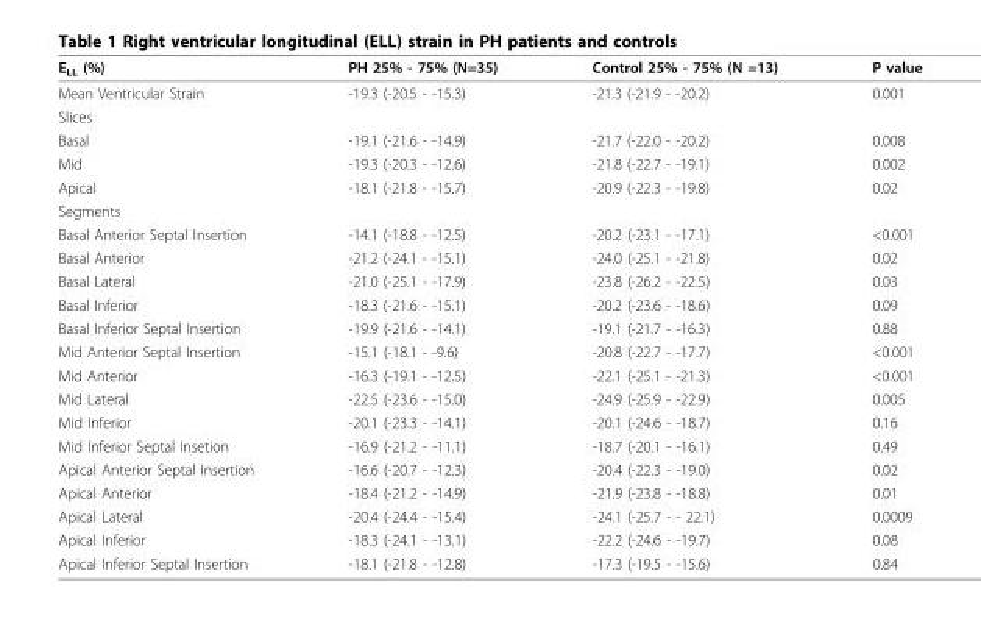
<table><thead><tr><td>E<sub>LL</sub> (%)</td><td>PH 25% - 75% (N=35)</td><td>Control 25% - 75% (N =13)</td><td>P value</td></tr></thead><tbody><tr><td>Mean Ventricular Strain</td><td>-19.3 (-20.5 - -15.3)</td><td>-21.3 (-21.9 - -20.2)</td><td>0.001</td></tr><tr><td colspan="4">Slices</td></tr><tr><td>Basal</td><td>-19.1 (-21.6 - -14.9)</td><td>-21.7 (-22.0 - -20.2)</td><td>0.008</td></tr><tr><td>Mid</td><td>-19.3 (-20.3 - -12.6)</td><td>-21.8 (-22.7 - -19.1)</td><td>0.002</td></tr><tr><td>Apical</td><td>-18.1 (-21.8 - -15.7)</td><td>-20.9 (-22.3 - -19.8)</td><td>0.02</td></tr><tr><td colspan="4">Segments</td></tr><tr><td>Basal Anterior Septal Insertion</td><td>-14.1 (-18.8 - -12.5)</td><td>-20.2 (-23.1 - -17.1)</td><td>&lt;0.001</td></tr><tr><td>Basal Anterior</td><td>-21.2 (-24.1 - -15.1)</td><td>-24.0 (-25.1 - -21.8)</td><td>0.02</td></tr><tr><td>Basal Lateral</td><td>-21.0 (-25.1 - -17.9)</td><td>-23.8 (-26.2 - -22.5)</td><td>0.03</td></tr><tr><td>Basal Inferior</td><td>-18.3 (-21.6 - -15.1)</td><td>-20.2 (-23.6 - -18.6)</td><td>0.09</td></tr><tr><td>Basal Inferior Septal Insertion</td><td>-19.9 (-21.6 - -14.1)</td><td>-19.1 (-21.7 - -16.3)</td><td>0.88</td></tr><tr><td>Mid Anterior Septal Insertion</td><td>-15.1 (-18.1 - -9.6)</td><td>-20.8 (-22.7 - -17.7)</td><td>&lt;0.001</td></tr><tr><td>Mid Anterior</td><td>-16.3 (-19.1 - -12.5)</td><td>-22.1 (-25.1 - -21.3)</td><td>&lt;0.001</td></tr><tr><td>Mid Lateral</td><td>-22.5 (-23.6 - -15.0)</td><td>-24.9 (-25.9 - -22.9)</td><td>0.005</td></tr><tr><td>Mid Inferior</td><td>-20.1 (-23.3 - -14.1)</td><td>-20.1 (-24.6 - -18.7)</td><td>0.16</td></tr><tr><td>Mid Inferior Septal Insetion</td><td>-16.9 (-21.2 - -11.1)</td><td>-18.7 (-20.1 - -16.1)</td><td>0.49</td></tr><tr><td>Apical Anterior Septal Insertion</td><td>-16.6 (-20.7 - -12.3)</td><td>-20.4 (-22.3 - -19.0)</td><td>0.02</td></tr><tr><td>Apical Anterior</td><td>-18.4 (-21.2 - -14.9)</td><td>-21.9 (-23.8 - -18.8)</td><td>0.01</td></tr><tr><td>Apical Lateral</td><td>-20.4 (-24.4 - -15.4)</td><td>-24.1 (-25.7 - - 22.1)</td><td>0.0009</td></tr><tr><td>Apical Inferior</td><td>-18.3 (-24.1 - -13.1)</td><td>-22.2 (-24.6 - -19.7)</td><td>0.08</td></tr><tr><td>Apical Inferior Septal Insertion</td><td>-18.1 (-21.8 - -12.8)</td><td>-17.3 (-19.5 - -15.6)</td><td>0.84</td></tr></tbody></table>